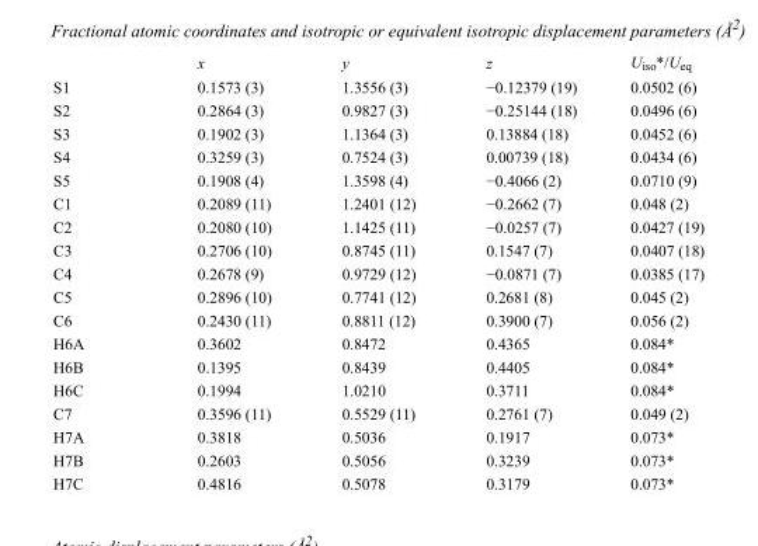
<table><thead><tr><td></td><td>x</td><td>y</td><td>z</td><td>U<sub>iso</sub>*/U<sub>eq</sub></td></tr></thead><tbody><tr><td>S1</td><td>0.1573 (3)</td><td>1.3556 (3)</td><td>−0.12379 (19)</td><td>0.0502 (6)</td></tr><tr><td>S2</td><td>0.2864 (3)</td><td>0.9827 (3)</td><td>−0.25144 (18)</td><td>0.0496 (6)</td></tr><tr><td>S3</td><td>0.1902 (3)</td><td>1.1364 (3)</td><td>0.13884 (18)</td><td>0.0452 (6)</td></tr><tr><td>S4</td><td>0.3259 (3)</td><td>0.7524 (3)</td><td>0.00739 (18)</td><td>0.0434 (6)</td></tr><tr><td>S5</td><td>0.1908 (4)</td><td>1.3598 (4)</td><td>−0.4066 (2)</td><td>0.0710 (9)</td></tr><tr><td>C1</td><td>0.2089 (11)</td><td>1.2401 (12)</td><td>−0.2662 (7)</td><td>0.048 (2)</td></tr><tr><td>C2</td><td>0.2080 (10)</td><td>1.1425 (11)</td><td>−0.0257 (7)</td><td>0.0427 (19)</td></tr><tr><td>C3</td><td>0.2706 (10)</td><td>0.8745 (11)</td><td>0.1547 (7)</td><td>0.0407 (18)</td></tr><tr><td>C4</td><td>0.2678 (9)</td><td>0.9729 (12)</td><td>−0.0871 (7)</td><td>0.0385 (17)</td></tr><tr><td>C5</td><td>0.2896 (10)</td><td>0.7741 (12)</td><td>0.2681 (8)</td><td>0.045 (2)</td></tr><tr><td>C6</td><td>0.2430 (11)</td><td>0.8811 (12)</td><td>0.3900 (7)</td><td>0.056 (2)</td></tr><tr><td>H6A</td><td>0.3602</td><td>0.8472</td><td>0.4365</td><td>0.084*</td></tr><tr><td>H6B</td><td>0.1395</td><td>0.8439</td><td>0.4405</td><td>0.084*</td></tr><tr><td>H6C</td><td>0.1994</td><td>1.0210</td><td>0.3711</td><td>0.084*</td></tr><tr><td>C7</td><td>0.3596 (11)</td><td>0.5529 (11)</td><td>0.2761 (7)</td><td>0.049 (2)</td></tr><tr><td>H7A</td><td>0.3818</td><td>0.5036</td><td>0.1917</td><td>0.073*</td></tr><tr><td>H7B</td><td>0.2603</td><td>0.5056</td><td>0.3239</td><td>0.073*</td></tr><tr><td>H7C</td><td>0.4816</td><td>0.5078</td><td>0.3179</td><td>0.073*</td></tr></tbody></table>